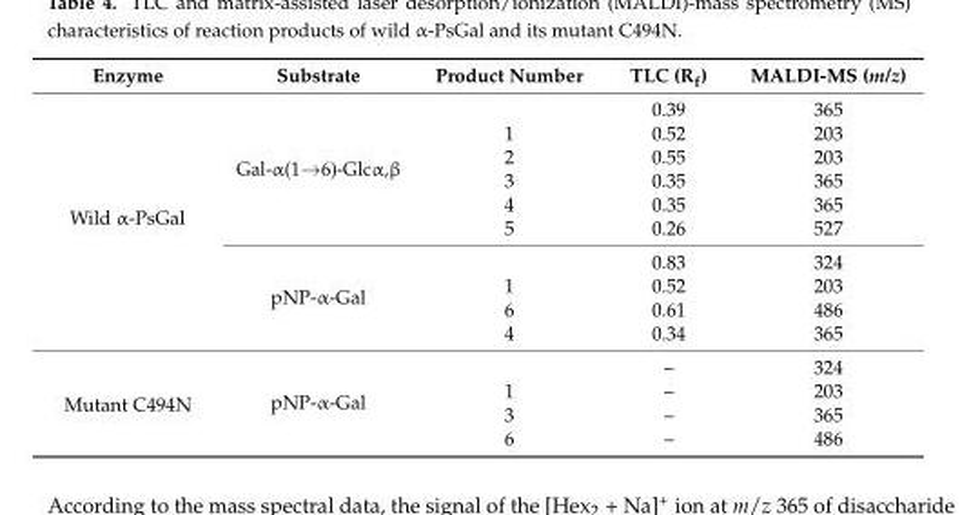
<table><thead><tr><td>Enzyme</td><td>Substrate</td><td>Product Number</td><td>TLC (R<sub>f</sub>)</td><td>MALDI-MS (m/z)</td></tr></thead><tbody><tr><td rowspan="10">Wild α-PsGal</td><td rowspan="6">Gal-α(1→6)-Glcα,β</td><td></td><td>0.39</td><td>365</td></tr><tr><td>1</td><td>0.52</td><td>203</td></tr><tr><td>2</td><td>0.55</td><td>203</td></tr><tr><td>3</td><td>0.35</td><td>365</td></tr><tr><td>4</td><td>0.35</td><td>365</td></tr><tr><td>5</td><td>0.26</td><td>527</td></tr><tr><td rowspan="4">pNP-α-Gal</td><td></td><td>0.83</td><td>324</td></tr><tr><td>1</td><td>0.52</td><td>203</td></tr><tr><td>6</td><td>0.61</td><td>486</td></tr><tr><td>4</td><td>0.34</td><td>365</td></tr><tr><td rowspan="4">Mutant C494N</td><td rowspan="4">pNP-α-Gal</td><td></td><td>–</td><td>324</td></tr><tr><td>1</td><td>–</td><td>203</td></tr><tr><td>3</td><td>–</td><td>365</td></tr><tr><td>6</td><td>–</td><td>486</td></tr></tbody></table>